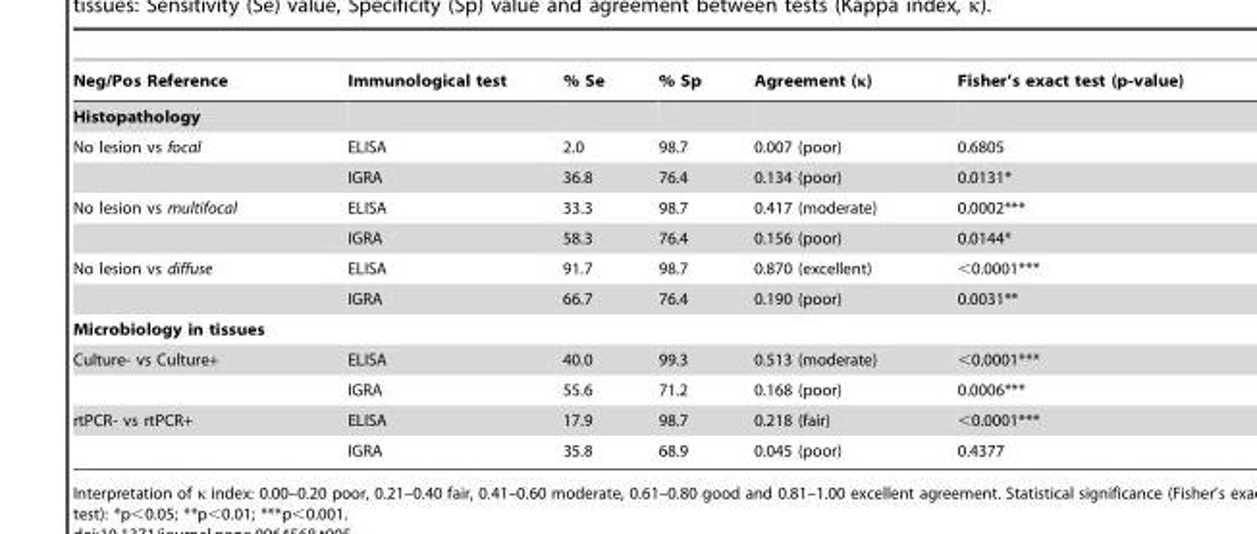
<table><thead><tr><td>Neg/Pos Reference</td><td>Immunological test</td><td>% Se</td><td>% Sp</td><td>Agreement (κ)</td><td>Fisher’s exact test (p-value)</td></tr></thead><tbody><tr><td colspan="6">Histopathology</td></tr><tr><td rowspan="2">No lesion vs focal</td><td>ELISA</td><td>2.0</td><td>98.7</td><td>0.007 (poor)</td><td>0.6805</td></tr><tr><td>IGRA</td><td>36.8</td><td>76.4</td><td>0.134 (poor)</td><td>0.0131*</td></tr><tr><td rowspan="2">No lesion vs multifocal</td><td>ELISA</td><td>33.3</td><td>98.7</td><td>0.417 (moderate)</td><td>0.0002***</td></tr><tr><td>IGRA</td><td>58.3</td><td>76.4</td><td>0.156 (poor)</td><td>0.0144*</td></tr><tr><td rowspan="2">No lesion vs diffuse</td><td>ELISA</td><td>91.7</td><td>98.7</td><td>0.870 (excellent)</td><td>&lt;0.0001***</td></tr><tr><td>IGRA</td><td>66.7</td><td>76.4</td><td>0.190 (poor)</td><td>0.0031**</td></tr><tr><td colspan="6">Microbiology in tissues</td></tr><tr><td rowspan="2">Culture- vs Culture+</td><td>ELISA</td><td>40.0</td><td>99.3</td><td>0.513 (moderate)</td><td>&lt;0.0001***</td></tr><tr><td>IGRA</td><td>55.6</td><td>71.2</td><td>0.168 (poor)</td><td>0.0006***</td></tr><tr><td rowspan="2">rtPCR- vs rtPCR+</td><td>ELISA</td><td>17.9</td><td>98.7</td><td>0.218 (fair)</td><td>&lt;0.0001***</td></tr><tr><td>IGRA</td><td>35.8</td><td>68.9</td><td>0.045 (poor)</td><td>0.4377</td></tr></tbody></table>